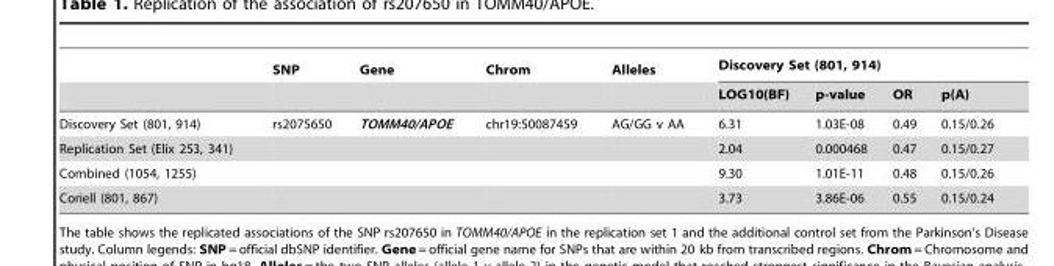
<table><thead><tr><td rowspan="2"></td><td rowspan="2">SNP</td><td rowspan="2">Gene</td><td rowspan="2">Chrom</td><td rowspan="2">Alleles</td><td colspan="4">Discovery Set (801, 914)</td></tr><tr><td>LOG10(BF)</td><td>p-value</td><td>OR</td><td>p(A)</td></tr></thead><tbody><tr><td>Discovery Set (801, 914)</td><td>rs2075650</td><td>TOMM40/APOE</td><td>chr19:50087459</td><td>AG/GG v AA</td><td>6.31</td><td>1.03E-08</td><td>0.49</td><td>0.15/0.26</td></tr><tr><td>Replication Set (Elix 253, 341)</td><td></td><td></td><td></td><td></td><td>2.04</td><td>0.000468</td><td>0.47</td><td>0.15/0.27</td></tr><tr><td>Combined (1054, 1255)</td><td></td><td></td><td></td><td></td><td>9.30</td><td>1.01E-11</td><td>0.48</td><td>0.15/0.26</td></tr><tr><td>Coriell (801, 867)</td><td></td><td></td><td></td><td></td><td>3.73</td><td>3.86E-06</td><td>0.55</td><td>0.15/0.24</td></tr></tbody></table>